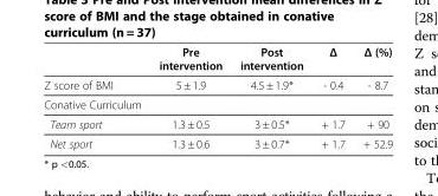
<table><thead><tr><td></td><td>Pre intervention</td><td>Post intervention</td><td>Δ</td><td>Δ (%)</td></tr></thead><tbody><tr><td>Z score of BMI</td><td>5 ± 1.9</td><td>4.5 ± 1.9*</td><td>- 0.4</td><td>- 8.7</td></tr><tr><td colspan="5">Conative Curriculum</td></tr><tr><td>Team sport</td><td>1.3 ± 0.5</td><td>3 ± 0.5*</td><td>+ 1.7</td><td>+ 90</td></tr><tr><td>Net sport</td><td>1.3 ± 0.6</td><td>3 ± 0.7*</td><td>+ 1.7</td><td>+ 52.9</td></tr></tbody></table>